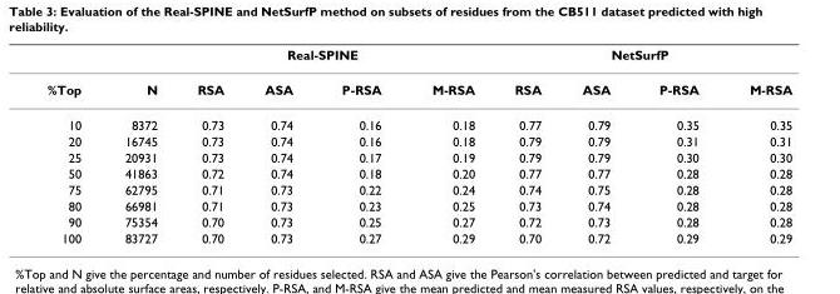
<table><thead><tr><td rowspan="2">%Top</td><td rowspan="2">N</td><td colspan="4">Real-SPINE</td><td colspan="4">NetSurfP</td></tr><tr><td>RSA</td><td>ASA</td><td>P-RSA</td><td>M-RSA</td><td>RSA</td><td>ASA</td><td>P-RSA</td><td>M-RSA</td></tr></thead><tbody><tr><td>10</td><td>8372</td><td>0.73</td><td>0.74</td><td>0.16</td><td>0.18</td><td>0.77</td><td>0.79</td><td>0.35</td><td>0.35</td></tr><tr><td>20</td><td>16745</td><td>0.73</td><td>0.74</td><td>0.16</td><td>0.18</td><td>0.79</td><td>0.79</td><td>0.31</td><td>0.31</td></tr><tr><td>25</td><td>20931</td><td>0.73</td><td>0.74</td><td>0.17</td><td>0.19</td><td>0.79</td><td>0.79</td><td>0.30</td><td>0.30</td></tr><tr><td>50</td><td>41863</td><td>0.72</td><td>0.74</td><td>0.18</td><td>0.20</td><td>0.77</td><td>0.77</td><td>0.28</td><td>0.28</td></tr><tr><td>75</td><td>62795</td><td>0.71</td><td>0.73</td><td>0.22</td><td>0.24</td><td>0.74</td><td>0.75</td><td>0.28</td><td>0.28</td></tr><tr><td>80</td><td>66981</td><td>0.71</td><td>0.73</td><td>0.23</td><td>0.25</td><td>0.73</td><td>0.74</td><td>0.28</td><td>0.28</td></tr><tr><td>90</td><td>75354</td><td>0.70</td><td>0.73</td><td>0.25</td><td>0.27</td><td>0.72</td><td>0.73</td><td>0.28</td><td>0.28</td></tr><tr><td>100</td><td>83727</td><td>0.70</td><td>0.73</td><td>0.27</td><td>0.29</td><td>0.70</td><td>0.72</td><td>0.29</td><td>0.29</td></tr></tbody></table>